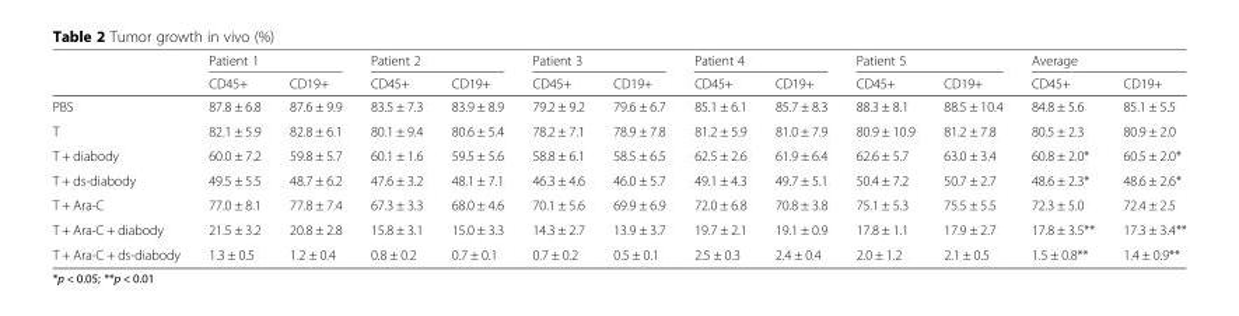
<table><thead><tr><td rowspan="2"></td><td colspan="2">Patient 1</td><td colspan="2">Patient 2</td><td colspan="2">Patient 3</td><td colspan="2">Patient 4</td><td colspan="2">Patient 5</td><td colspan="2">Average</td></tr><tr><td>CD45+</td><td>CD19+</td><td>CD45+</td><td>CD19+</td><td>CD45+</td><td>CD19+</td><td>CD45+</td><td>CD19+</td><td>CD45+</td><td>CD19+</td><td>CD45+</td><td>CD19+</td></tr></thead><tbody><tr><td>PBS</td><td>87.8 ± 6.8</td><td>87.6 ± 9.9</td><td>83.5 ± 7.3</td><td>83.9 ± 8.9</td><td>79.2 ± 9.2</td><td>79.6 ± 6.7</td><td>85.1 ± 6.1</td><td>85.7 ± 8.3</td><td>88.3 ± 8.1</td><td>88.5 ± 10.4</td><td>84.8 ± 5.6</td><td>85.1 ± 5.5</td></tr><tr><td>T</td><td>82.1 ± 5.9</td><td>82.8 ± 6.1</td><td>80.1 ± 9.4</td><td>80.6 ± 5.4</td><td>78.2 ± 7.1</td><td>78.9 ± 7.8</td><td>81.2 ± 5.9</td><td>81.0 ± 7.9</td><td>80.9 ± 10.9</td><td>81.2 ± 7.8</td><td>80.5 ± 2.3</td><td>80.9 ± 2.0</td></tr><tr><td>T + diabody</td><td>60.0 ± 7.2</td><td>59.8 ± 5.7</td><td>60.1 ± 1.6</td><td>59.5 ± 5.6</td><td>58.8 ± 6.1</td><td>58.5 ± 6.5</td><td>62.5 ± 2.6</td><td>61.9 ± 6.4</td><td>62.6 ± 5.7</td><td>63.0 ± 3.4</td><td>60.8 ± 2.0*</td><td>60.5 ± 2.0*</td></tr><tr><td>T + ds-diabody</td><td>49.5 ± 5.5</td><td>48.7 ± 6.2</td><td>47.6 ± 3.2</td><td>48.1 ± 7.1</td><td>46.3 ± 4.6</td><td>46.0 ± 5.7</td><td>49.1 ± 4.3</td><td>49.7 ± 5.1</td><td>50.4 ± 7.2</td><td>50.7 ± 2.7</td><td>48.6 ± 2.3*</td><td>48.6 ± 2.6*</td></tr><tr><td>T + Ara-C</td><td>77.0 ± 8.1</td><td>77.8 ± 7.4</td><td>67.3 ± 3.3</td><td>68.0 ± 4.6</td><td>70.1 ± 5.6</td><td>69.9 ± 6.9</td><td>72.0 ± 6.8</td><td>70.8 ± 3.8</td><td>75.1 ± 5.3</td><td>75.5 ± 5.5</td><td>72.3 ± 5.0</td><td>72.4 ± 2.5</td></tr><tr><td>T + Ara-C + diabody</td><td>21.5 ± 3.2</td><td>20.8 ± 2.8</td><td>15.8 ± 3.1</td><td>15.0 ± 3.3</td><td>14.3 ± 2.7</td><td>13.9 ± 3.7</td><td>19.7 ± 2.1</td><td>19.1 ± 0.9</td><td>17.8 ± 1.1</td><td>17.9 ± 2.7</td><td>17.8 ± 3.5**</td><td>17.3 ± 3.4**</td></tr><tr><td>T + Ara-C + ds-diabody</td><td>1.3 ± 0.5</td><td>1.2 ± 0.4</td><td>0.8 ± 0.2</td><td>0.7 ± 0.1</td><td>0.7 ± 0.2</td><td>0.5 ± 0.1</td><td>2.5 ± 0.3</td><td>2.4 ± 0.4</td><td>2.0 ± 1.2</td><td>2.1 ± 0.5</td><td>1.5 ± 0.8**</td><td>1.4 ± 0.9**</td></tr></tbody></table>